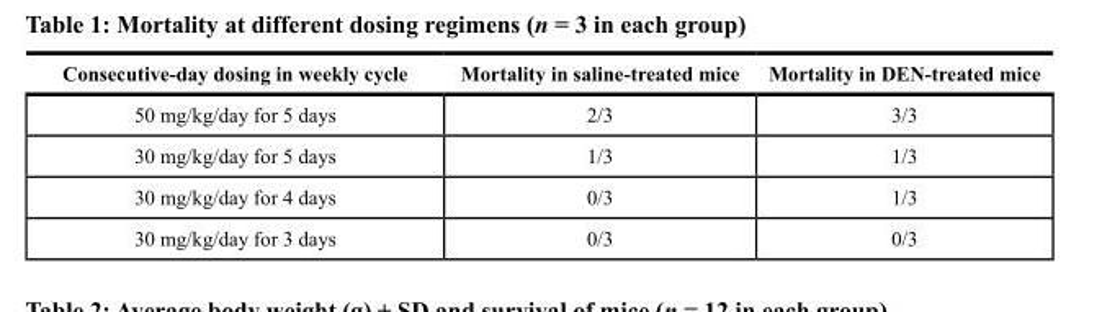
<table><thead><tr><td>consecutive-day dosing in weekly cycle</td><td>Mortality in saline-treated mice</td><td>Mortality in den-treated mice</td></tr></thead><tbody><tr><td>50 mg/kg/day for 5 days</td><td>2/3</td><td>3/3</td></tr><tr><td>30 mg/kg/day for 5 days</td><td>1/3</td><td>1/3</td></tr><tr><td>30 mg/kg/day for 4 days</td><td>0/3</td><td>1/3</td></tr><tr><td>30 mg/kg/day for 3 days</td><td>0/3</td><td>0/3</td></tr></tbody></table>